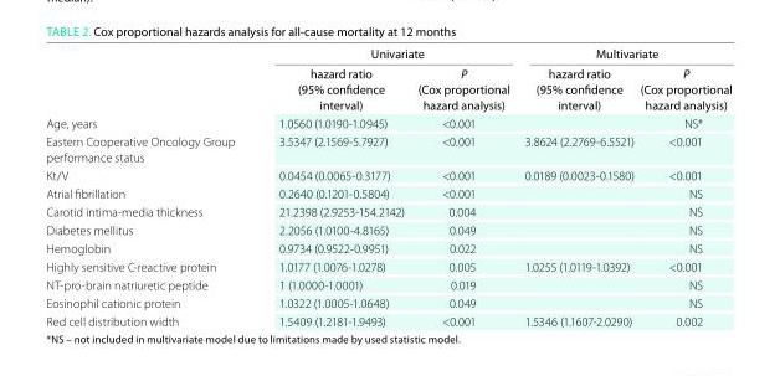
<table><thead><tr><td rowspan="2"></td><td colspan="2">univariate</td><td colspan="2">Multivariate</td></tr><tr><td>hazard ratio (95% confidence interval)</td><td>P (Cox proportional hazard analysis)</td><td>hazard ratio (95% confidence interval)</td><td>P (Cox proportional hazard analysis)</td></tr></thead><tbody><tr><td>Age, years</td><td>1.0560 (1.0190-1.0945)</td><td>&lt;0.001</td><td></td><td>NS*</td></tr><tr><td>Eastern Cooperative Oncology Group performance status</td><td>3.5347 (2.1569-5.7927)</td><td>&lt;0.001</td><td>3.8624 (2.2769-6.5521)</td><td>&lt;0.001</td></tr><tr><td>Kt/V</td><td>0.0454 (0.0065-0.3177)</td><td>&lt;0.001</td><td>0.0189 (0.0023-0.1580)</td><td>&lt;0.001</td></tr><tr><td>Atrial fibrillation</td><td>0.2640 (0.1201-0.5804)</td><td>&lt;0.001</td><td></td><td>NS</td></tr><tr><td>Carotid intima-media thickness</td><td>21.2398 (2.9253-154.2142)</td><td>0.004</td><td></td><td>NS</td></tr><tr><td>Diabetes mellitus</td><td>2.2056 (1.0100-4.8165)</td><td>0.049</td><td></td><td>NS</td></tr><tr><td>Hemoglobin</td><td>0.9734 (0.9522-0.9951)</td><td>0.022</td><td></td><td>NS</td></tr><tr><td>Highly sensitive C-reactive protein</td><td>1.0177 (1.0076-1.0278)</td><td>0.005</td><td>1.0255 (1.0119-1.0392)</td><td>&lt;0.001</td></tr><tr><td>NT-pro-brain natriuretic peptide</td><td>1 (1.0000-1.0001)</td><td>0.019</td><td></td><td>NS</td></tr><tr><td>Eosinophil cationic protein</td><td>1.0322 (1.0005-1.0648)</td><td>0.049</td><td></td><td>NS</td></tr><tr><td>Red cell distribution width</td><td>1.5409 (1.2181-1.9493)</td><td>&lt;0.001</td><td>1.5346 (1.1607-2.0290)</td><td>0.002</td></tr></tbody></table>